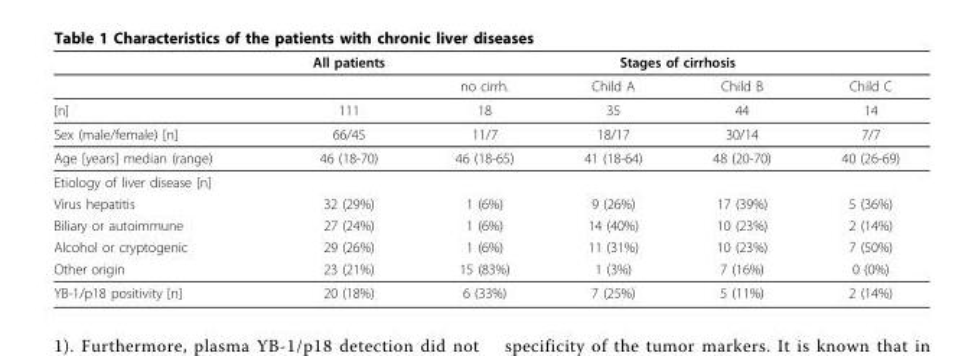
<table><thead><tr><td rowspan="2"></td><td rowspan="2">All patients</td><td colspan="4">Stages of cirrhosis</td></tr><tr><td>no cirrh.</td><td>Child A</td><td>Child B</td><td>Child C</td></tr></thead><tbody><tr><td>[n]</td><td>111</td><td>18</td><td>35</td><td>44</td><td>14</td></tr><tr><td>Sex (male/female) [n]</td><td>66/45</td><td>11/7</td><td>18/17</td><td>30/14</td><td>7/7</td></tr><tr><td>Age [years] median (range)</td><td>46 (18-70)</td><td>46 (18-65)</td><td>41 (18-64)</td><td>48 (20-70)</td><td>40 (26-69)</td></tr><tr><td colspan="6">Etiology of liver disease [n]</td></tr><tr><td>Virus hepatitis</td><td>32 (29%)</td><td>1 (6%)</td><td>9 (26%)</td><td>17 (39%)</td><td>5 (36%)</td></tr><tr><td>Biliary or autoimmune</td><td>27 (24%)</td><td>1 (6%)</td><td>14 (40%)</td><td>10 (23%)</td><td>2 (14%)</td></tr><tr><td>Alcohol or cryptogenic</td><td>29 (26%)</td><td>1 (6%)</td><td>11 (31%)</td><td>10 (23%)</td><td>7 (50%)</td></tr><tr><td>Other origin</td><td>23 (21%)</td><td>15 (83%)</td><td>1 (3%)</td><td>7 (16%)</td><td>0 (0%)</td></tr><tr><td>YB-1/p18 positivity [n]</td><td>20 (18%)</td><td>6 (33%)</td><td>7 (25%)</td><td>5 (11%)</td><td>2 (14%)</td></tr></tbody></table>